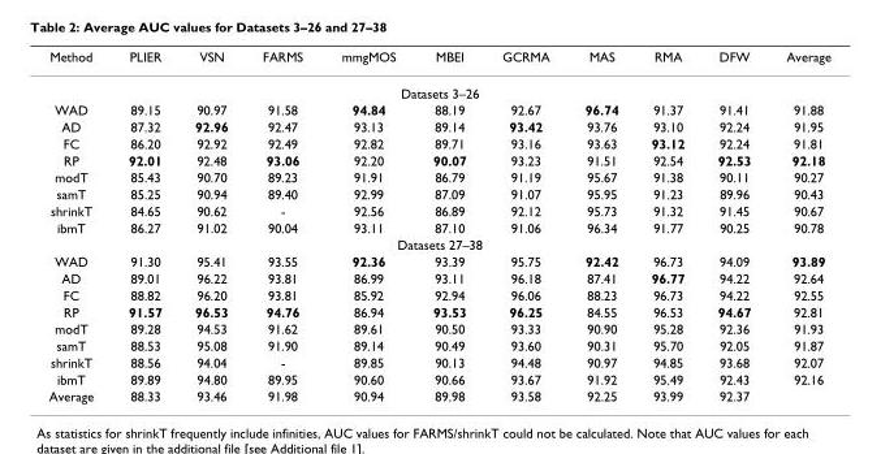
<table><thead><tr><td>Method</td><td>PLIER</td><td>VSN</td><td>FARMS</td><td>mmgMOS</td><td>MBEI</td><td>GCRMA</td><td>MAS</td><td>RMA</td><td>DFW</td><td>Average</td></tr></thead><tbody><tr><td colspan="11">Datasets 3–26</td></tr><tr><td>WAD</td><td>89.15</td><td>90.97</td><td>91.58</td><td>94.84</td><td>88.19</td><td>92.67</td><td>96.74</td><td>91.37</td><td>91.41</td><td>91.88</td></tr><tr><td>AD</td><td>87.32</td><td>92.96</td><td>92.47</td><td>93.13</td><td>89.14</td><td>93.42</td><td>93.76</td><td>93.10</td><td>92.24</td><td>91.95</td></tr><tr><td>FC</td><td>86.20</td><td>92.92</td><td>92.49</td><td>92.82</td><td>89.71</td><td>93.16</td><td>93.63</td><td>93.12</td><td>92.24</td><td>91.81</td></tr><tr><td>RP</td><td>92.01</td><td>92.48</td><td>93.06</td><td>92.20</td><td>90.07</td><td>93.23</td><td>91.51</td><td>92.54</td><td>92.53</td><td>92.18</td></tr><tr><td>modT</td><td>85.43</td><td>90.70</td><td>89.23</td><td>91.91</td><td>86.79</td><td>91.19</td><td>95.67</td><td>91.38</td><td>90.11</td><td>90.27</td></tr><tr><td>samT</td><td>85.25</td><td>90.94</td><td>89.40</td><td>92.99</td><td>87.09</td><td>91.07</td><td>95.95</td><td>91.23</td><td>89.96</td><td>90.43</td></tr><tr><td>shrinkT</td><td>84.65</td><td>90.62</td><td>-</td><td>92.56</td><td>86.89</td><td>92.12</td><td>95.73</td><td>91.32</td><td>91.45</td><td>90.67</td></tr><tr><td>ibmT</td><td>86.27</td><td>91.02</td><td>90.04</td><td>93.11</td><td>87.10</td><td>91.06</td><td>96.34</td><td>91.77</td><td>90.25</td><td>90.78</td></tr><tr><td colspan="11">Datasets 27–38</td></tr><tr><td>WAD</td><td>91.30</td><td>95.41</td><td>93.55</td><td>92.36</td><td>93.39</td><td>95.75</td><td>92.42</td><td>96.73</td><td>94.09</td><td>93.89</td></tr><tr><td>AD</td><td>89.01</td><td>96.22</td><td>93.81</td><td>86.99</td><td>93.11</td><td>96.18</td><td>87.41</td><td>96.77</td><td>94.22</td><td>92.64</td></tr><tr><td>FC</td><td>88.82</td><td>96.20</td><td>93.81</td><td>85.92</td><td>92.94</td><td>96.06</td><td>88.23</td><td>96.73</td><td>94.22</td><td>92.55</td></tr><tr><td>RP</td><td>91.57</td><td>96.53</td><td>94.76</td><td>86.94</td><td>93.53</td><td>96.25</td><td>84.55</td><td>96.53</td><td>94.67</td><td>92.81</td></tr><tr><td>modT</td><td>89.28</td><td>94.53</td><td>91.62</td><td>89.61</td><td>90.50</td><td>93.33</td><td>90.90</td><td>95.28</td><td>92.36</td><td>91.93</td></tr><tr><td>samT</td><td>88.53</td><td>95.08</td><td>91.90</td><td>89.14</td><td>90.49</td><td>93.60</td><td>90.31</td><td>95.70</td><td>92.05</td><td>91.87</td></tr><tr><td>shrinkT</td><td>88.56</td><td>94.04</td><td>-</td><td>89.85</td><td>90.13</td><td>94.48</td><td>90.97</td><td>94.85</td><td>93.68</td><td>92.07</td></tr><tr><td>ibmT</td><td>89.89</td><td>94.80</td><td>89.95</td><td>90.60</td><td>90.66</td><td>93.67</td><td>91.92</td><td>95.49</td><td>92.43</td><td>92.16</td></tr><tr><td>Average</td><td>88.33</td><td>93.46</td><td>91.98</td><td>90.94</td><td>89.98</td><td>93.58</td><td>92.25</td><td>93.99</td><td>92.37</td><td></td></tr></tbody></table>